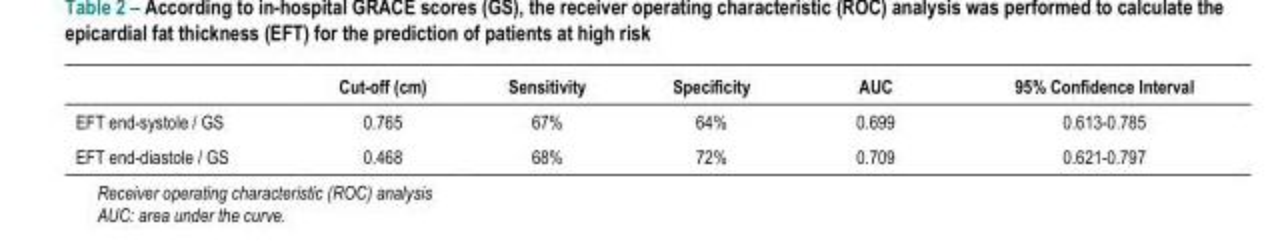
<table><thead><tr><td></td><td>Cut-off (cm)</td><td>Sensitivity</td><td>Specificity</td><td>AUC</td><td>95% Confidence Interval</td></tr></thead><tbody><tr><td>EFT end-systole / GS</td><td>0.765</td><td>67%</td><td>64%</td><td>0.699</td><td>0.613-0.785</td></tr><tr><td>EFT end-diastole / GS</td><td>0.468</td><td>68%</td><td>72%</td><td>0.709</td><td>0.621-0.797</td></tr></tbody></table>